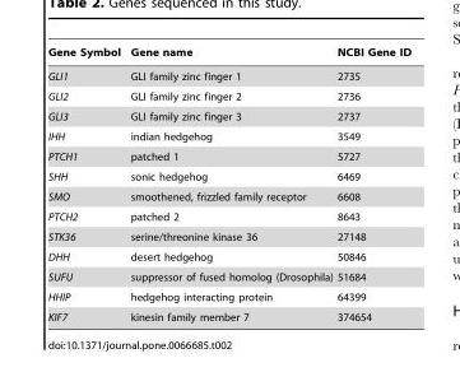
<table><thead><tr><td>Gene Symbol</td><td>Gene name</td><td>NCBI Gene ID</td></tr></thead><tbody><tr><td>GLI1</td><td>GLI family zinc finger 1</td><td>2735</td></tr><tr><td>GLI2</td><td>GLI family zinc finger 2</td><td>2736</td></tr><tr><td>GLI3</td><td>GLI family zinc finger 3</td><td>2737</td></tr><tr><td>IHH</td><td>indian hedgehog</td><td>3549</td></tr><tr><td>PTCH1</td><td>patched 1</td><td>5727</td></tr><tr><td>SHH</td><td>sonic hedgehog</td><td>6469</td></tr><tr><td>SMO</td><td>smoothened, frizzled family receptor</td><td>6608</td></tr><tr><td>PTCH2</td><td>patched 2</td><td>8643</td></tr><tr><td>STK36</td><td>serine/threonine kinase 36</td><td>27148</td></tr><tr><td>DHH</td><td>desert hedgehog</td><td>50846</td></tr><tr><td>SUFU</td><td>suppressor of fused homolog (Drosophila)</td><td>51684</td></tr><tr><td>HHIP</td><td>hedgehog interacting protein</td><td>64399</td></tr><tr><td>KIF7</td><td>kinesin family member 7</td><td>374654</td></tr></tbody></table>